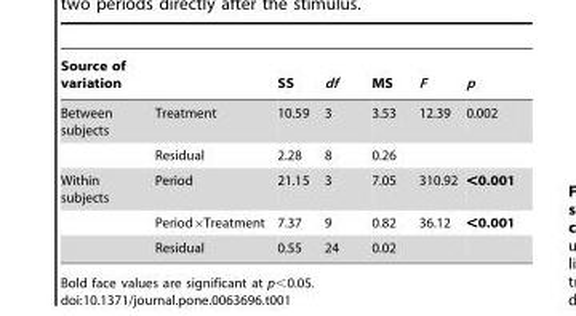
<table><thead><tr><td>Source of variation</td><td></td><td>SS</td><td>df</td><td>MS</td><td>F</td><td>p</td></tr></thead><tbody><tr><td rowspan="2">Between subjects</td><td>Treatment</td><td>10.59</td><td>3</td><td>3.53</td><td>12.39</td><td>0.002</td></tr><tr><td>Residual</td><td>2.28</td><td>8</td><td>0.26</td><td></td><td></td></tr><tr><td rowspan="3">Within subjects</td><td>Period</td><td>21.15</td><td>3</td><td>7.05</td><td>310.92</td><td>&lt;0.001</td></tr><tr><td>Period×Treatment</td><td>7.37</td><td>9</td><td>0.82</td><td>36.12</td><td>&lt;0.001</td></tr><tr><td>Residual</td><td>0.55</td><td>24</td><td>0.02</td><td></td><td></td></tr></tbody></table>